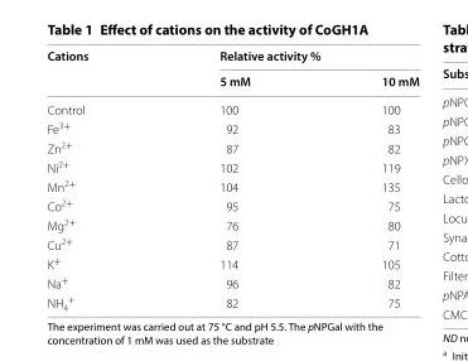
<table><thead><tr><td rowspan="2">Cations</td><td colspan="2">Relative activity %</td></tr><tr><td>5 mM</td><td>10 mM</td></tr></thead><tbody><tr><td>Control</td><td>100</td><td>100</td></tr><tr><td>Fe<sup>3+</sup></td><td>92</td><td>83</td></tr><tr><td>Zn<sup>2+</sup></td><td>87</td><td>82</td></tr><tr><td>Ni<sup>2+</sup></td><td>102</td><td>119</td></tr><tr><td>Mn<sup>2+</sup></td><td>104</td><td>135</td></tr><tr><td>Co<sup>2+</sup></td><td>95</td><td>75</td></tr><tr><td>Mg<sup>2+</sup></td><td>76</td><td>80</td></tr><tr><td>Cu<sup>2+</sup></td><td>87</td><td>71</td></tr><tr><td>K<sup>+</sup></td><td>114</td><td>105</td></tr><tr><td>Na<sup>+</sup></td><td>96</td><td>82</td></tr><tr><td>NH<sub>4</sub> <sup>+</sup></td><td>82</td><td>75</td></tr></tbody></table>